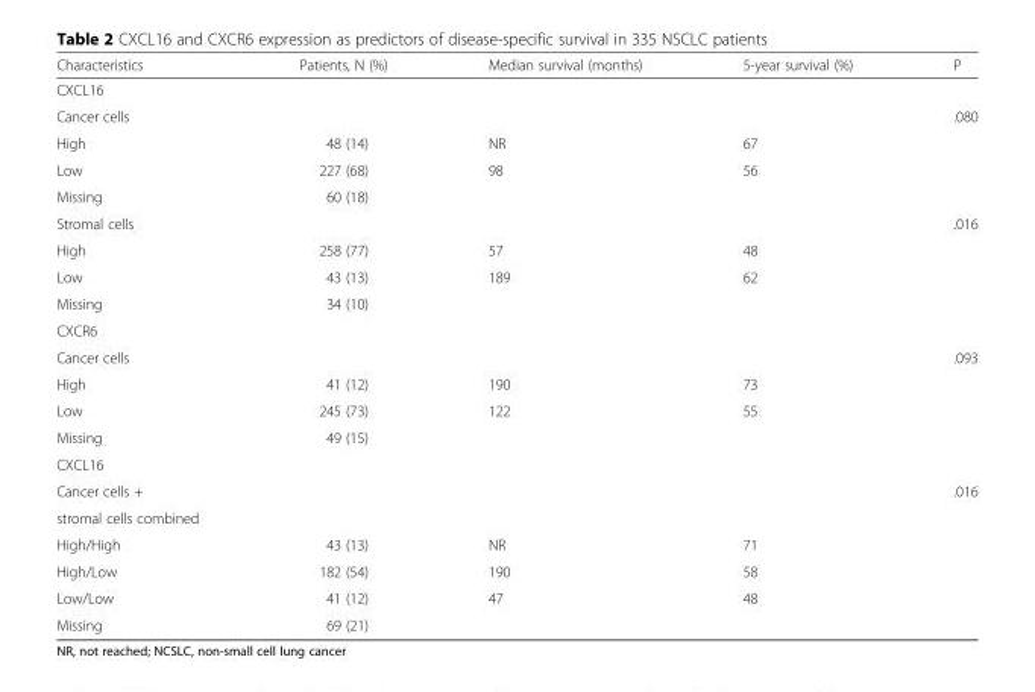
<table><thead><tr><td>Characteristics</td><td>Patients, N (%)</td><td>Median survival (months)</td><td>5-year survival (%)</td><td>P</td></tr></thead><tbody><tr><td colspan="5">CXCL16</td></tr><tr><td>Cancer cells</td><td></td><td></td><td></td><td>.080</td></tr><tr><td>High</td><td>48 (14)</td><td>NR</td><td>67</td><td></td></tr><tr><td>Low</td><td>227 (68)</td><td>98</td><td>56</td><td></td></tr><tr><td>Missing</td><td>60 (18)</td><td></td><td></td><td></td></tr><tr><td>Stromal cells</td><td></td><td></td><td></td><td>.016</td></tr><tr><td>High</td><td>258 (77)</td><td>57</td><td>48</td><td></td></tr><tr><td>Low</td><td>43 (13)</td><td>189</td><td>62</td><td></td></tr><tr><td>Missing</td><td>34 (10)</td><td></td><td></td><td></td></tr><tr><td colspan="5">CXCR6</td></tr><tr><td>Cancer cells</td><td></td><td></td><td></td><td>.093</td></tr><tr><td>High</td><td>41 (12)</td><td>190</td><td>73</td><td></td></tr><tr><td>Low</td><td>245 (73)</td><td>122</td><td>55</td><td></td></tr><tr><td>Missing</td><td>49 (15)</td><td></td><td></td><td></td></tr><tr><td colspan="5">CXCL16</td></tr><tr><td>Cancer cells +</td><td></td><td></td><td></td><td>.016</td></tr><tr><td colspan="5">stromal cells combined</td></tr><tr><td>High/High</td><td>43 (13)</td><td>NR</td><td>71</td><td></td></tr><tr><td>High/Low</td><td>182 (54)</td><td>190</td><td>58</td><td></td></tr><tr><td>Low/Low</td><td>41 (12)</td><td>47</td><td>48</td><td></td></tr><tr><td>Missing</td><td>69 (21)</td><td></td><td></td><td></td></tr></tbody></table>